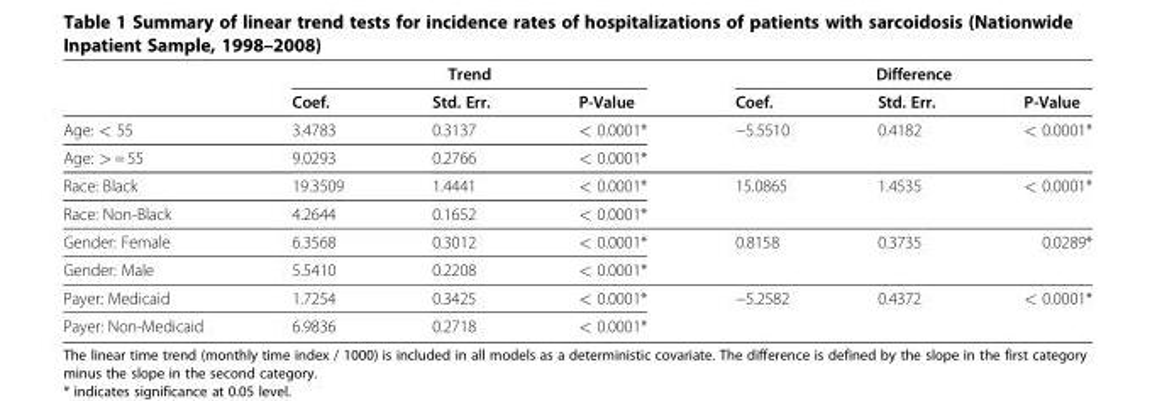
<table><thead><tr><td rowspan="2"></td><td colspan="3">Trend</td><td colspan="3">Difference</td></tr><tr><td>Coef.</td><td>Std. Err.</td><td>P-Value</td><td>Coef.</td><td>Std. Err.</td><td>P-Value</td></tr></thead><tbody><tr><td>Age: &lt; 55</td><td>3.4783</td><td>0.3137</td><td>&lt; 0.0001*</td><td rowspan="2">−5.5510</td><td rowspan="2">0.4182</td><td rowspan="2">&lt; 0.0001*</td></tr><tr><td>Age: &gt; = 55</td><td>9.0293</td><td>0.2766</td><td>&lt; 0.0001*</td></tr><tr><td>Race: Black</td><td>19.3509</td><td>1.4441</td><td>&lt; 0.0001*</td><td rowspan="2">15.0865</td><td rowspan="2">1.4535</td><td rowspan="2">&lt; 0.0001*</td></tr><tr><td>Race: Non-Black</td><td>4.2644</td><td>0.1652</td><td>&lt; 0.0001*</td></tr><tr><td>Gender: Female</td><td>6.3568</td><td>0.3012</td><td>&lt; 0.0001*</td><td rowspan="2">0.8158</td><td rowspan="2">0.3735</td><td rowspan="2">0.0289*</td></tr><tr><td>Gender: Male</td><td>5.5410</td><td>0.2208</td><td>&lt; 0.0001*</td></tr><tr><td>Payer: Medicaid</td><td>1.7254</td><td>0.3425</td><td>&lt; 0.0001*</td><td rowspan="2">−5.2582</td><td rowspan="2">0.4372</td><td rowspan="2">&lt; 0.0001*</td></tr><tr><td>Payer: Non-Medicaid</td><td>6.9836</td><td>0.2718</td><td>&lt; 0.0001*</td></tr></tbody></table>